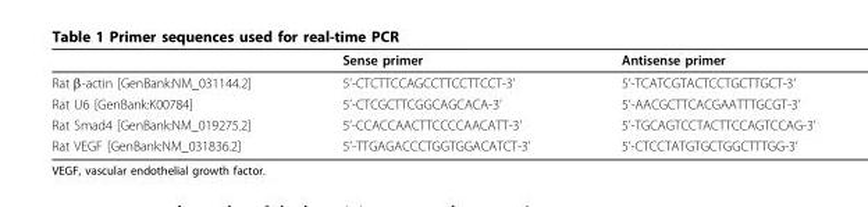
<table><thead><tr><td></td><td>Sense primer</td><td>Antisense primer</td></tr></thead><tbody><tr><td>Rat β-actin [GenBank:NM_031144.2]</td><td>5’-CTCTTCCAGCCTTCCTTCCT-3’</td><td>5’-TCATCGTACTCCTGCTTGCT-3’</td></tr><tr><td>Rat U6 [GenBank:K00784]</td><td>5’-CTCGCTTCGGCAGCACA-3’</td><td>5’-AACGCTTCACGAATTTGCGT-3’</td></tr><tr><td>Rat Smad4 [GenBank:NM_019275.2]</td><td>5’-CCACCAACTTCCCCAACATT-3’</td><td>5’-TGCAGTCCTACTTCCAGTCCAG-3’</td></tr><tr><td>Rat VEGF [GenBank:NM_031836.2]</td><td>5’-TTGAGACCCTGGTGGACATCT-3’</td><td>5’-CTCCTATGTGCTGGCTTTGG-3’</td></tr></tbody></table>